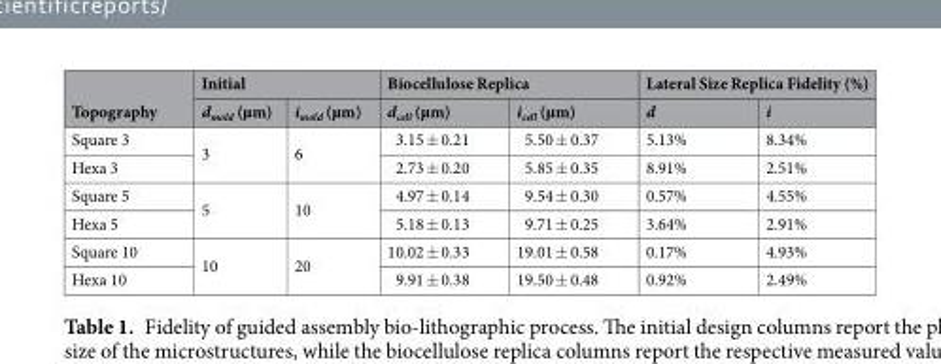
<table><thead><tr><td rowspan="2">Topography</td><td colspan="2">Initial</td><td colspan="2">Biocellulose Replica</td><td colspan="2">Lateral Size Replica Fidelity (%)</td></tr><tr><td>d<sub>mold</sub> (µm)</td><td>i<sub>mold</sub> (µm)</td><td>d<sub>cell</sub> (µm)</td><td>i<sub>cell</sub> (µm)</td><td>d</td><td>i</td></tr></thead><tbody><tr><td>Square 3</td><td rowspan="2">3</td><td rowspan="2">6</td><td>3.15 ± 0.21</td><td>5.50 ± 0.37</td><td>5.13%</td><td>8.34%</td></tr><tr><td>Hexa 3</td><td>2.73 ± 0.20</td><td>5.85 ± 0.35</td><td>8.91%</td><td>2.51%</td></tr><tr><td>Square 5</td><td rowspan="2">5</td><td rowspan="2">10</td><td>4.97 ± 0.14</td><td>9.54 ± 0.30</td><td>0.57%</td><td>4.55%</td></tr><tr><td>Hexa 5</td><td>5.18 ± 0.13</td><td>9.71 ± 0.25</td><td>3.64%</td><td>2.91%</td></tr><tr><td>Square 10</td><td rowspan="2">10</td><td rowspan="2">20</td><td>10.02 ± 0.33</td><td>19.01 ± 0.58</td><td>0.17%</td><td>4.93%</td></tr><tr><td>Hexa 10</td><td>9.91 ± 0.38</td><td>19.50 ± 0.48</td><td>0.92%</td><td>2.49%</td></tr></tbody></table>